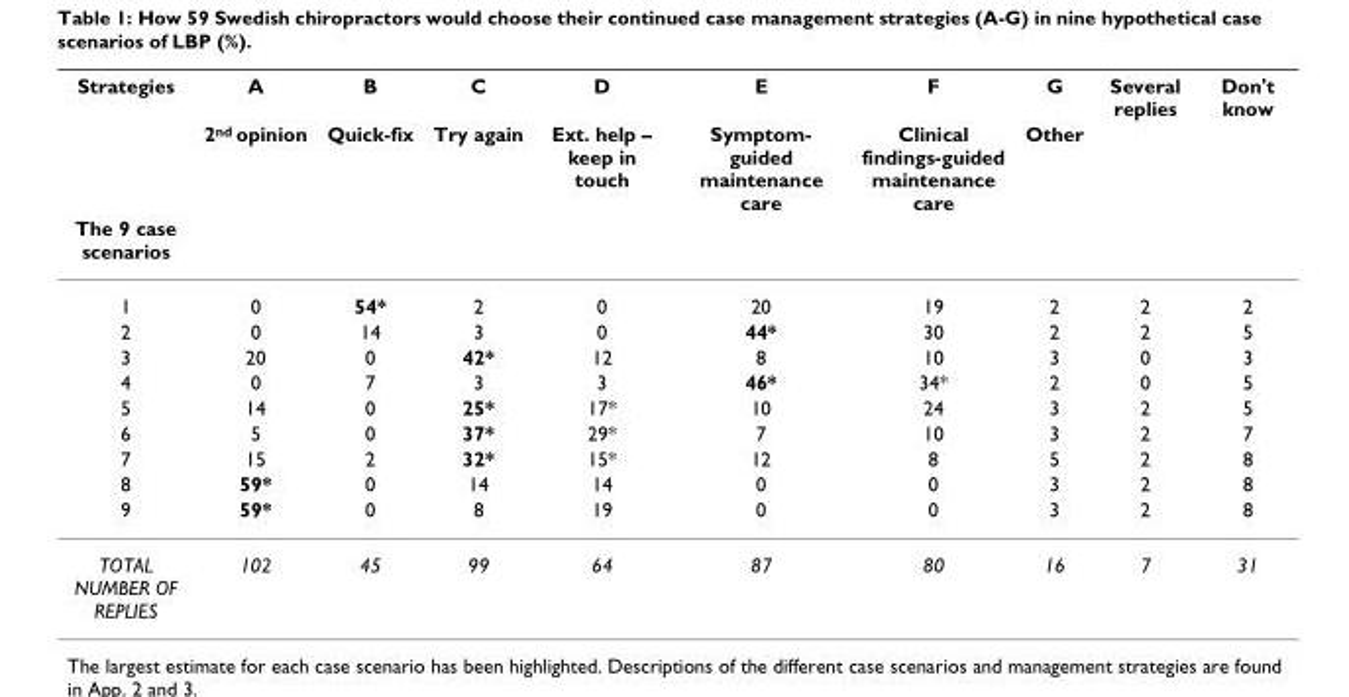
<table><thead><tr><td rowspan="3">Strategies The 9 case scenarios</td><td rowspan="3">A 2<sup>nd</sup> opinion</td><td rowspan="3">B Quick-fix</td><td rowspan="3">C Try again</td><td rowspan="3">D Ext. help – keep in touch</td><td rowspan="3">E Symptom- guided maintenance care</td><td rowspan="3">F Clinical findings-guided maintenance care</td><td rowspan="3">G Other</td><td rowspan="3">Several replies</td><td rowspan="3">Don&#x27;t know</td></tr><tr></tr><tr></tr></thead><tbody><tr><td>1</td><td>0</td><td>54*</td><td>2</td><td>0</td><td>20</td><td>19</td><td>2</td><td>2</td><td>2</td></tr><tr><td>2</td><td>0</td><td>14</td><td>3</td><td>0</td><td>44*</td><td>30</td><td>2</td><td>2</td><td>5</td></tr><tr><td>3</td><td>20</td><td>0</td><td>42*</td><td>12</td><td>8</td><td>10</td><td>3</td><td>0</td><td>3</td></tr><tr><td>4</td><td>0</td><td>7</td><td>3</td><td>3</td><td>46*</td><td>34*</td><td>2</td><td>0</td><td>5</td></tr><tr><td>5</td><td>14</td><td>0</td><td>25*</td><td>17*</td><td>10</td><td>24</td><td>3</td><td>2</td><td>5</td></tr><tr><td>6</td><td>5</td><td>0</td><td>37*</td><td>29*</td><td>7</td><td>10</td><td>3</td><td>2</td><td>7</td></tr><tr><td>7</td><td>15</td><td>2</td><td>32*</td><td>15*</td><td>12</td><td>8</td><td>5</td><td>2</td><td>8</td></tr><tr><td>8</td><td>59*</td><td>0</td><td>14</td><td>14</td><td>0</td><td>0</td><td>3</td><td>2</td><td>8</td></tr><tr><td>9</td><td>59*</td><td>0</td><td>8</td><td>19</td><td>0</td><td>0</td><td>3</td><td>2</td><td>8</td></tr><tr><td>TOTAL NUMBER OF REPLIES</td><td>102</td><td>45</td><td>99</td><td>64</td><td>87</td><td>80</td><td>16</td><td>7</td><td>31</td></tr></tbody></table>